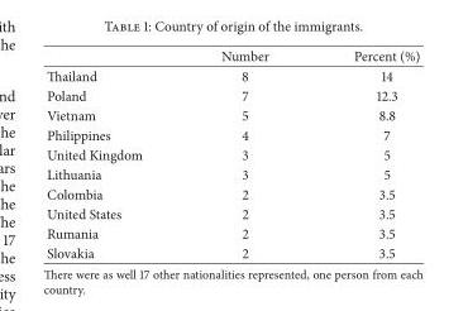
<table><thead><tr><td></td><td>Number</td><td>Percent (%)</td></tr></thead><tbody><tr><td>Thailand</td><td>8</td><td>14</td></tr><tr><td>Poland</td><td>7</td><td>12.3</td></tr><tr><td>Vietnam</td><td>5</td><td>8.8</td></tr><tr><td>Philippines</td><td>4</td><td>7</td></tr><tr><td>United Kingdom</td><td>3</td><td>5</td></tr><tr><td>Lithuania</td><td>3</td><td>5</td></tr><tr><td>Colombia</td><td>2</td><td>3.5</td></tr><tr><td>United States</td><td>2</td><td>3.5</td></tr><tr><td>Rumania</td><td>2</td><td>3.5</td></tr><tr><td>Slovakia</td><td>2</td><td>3.5</td></tr></tbody></table>